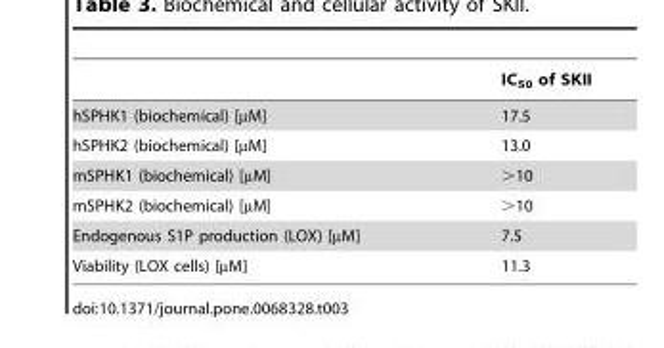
<table><thead><tr><td></td><td>IC<sub>50</sub> of SKII</td></tr></thead><tbody><tr><td>hSPHK1 (biochemical) [µM]</td><td>17.5</td></tr><tr><td>hSPHK2 (biochemical) [µM]</td><td>13.0</td></tr><tr><td>mSPHK1 (biochemical) [µM]</td><td>&gt;10</td></tr><tr><td>mSPHK2 (biochemical) [µM]</td><td>&gt;10</td></tr><tr><td>Endogenous S1P production (LOX) [µM]</td><td>7.5</td></tr><tr><td>Viability (LOX cells) [µM]</td><td>11.3</td></tr></tbody></table>